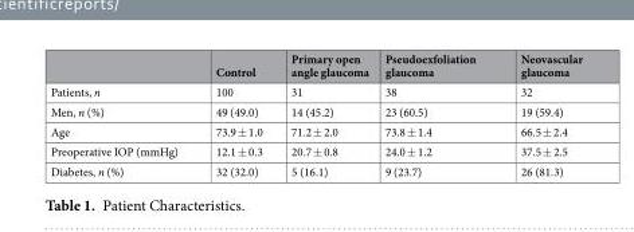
<table><thead><tr><td></td><td>Control</td><td>Primary open angle glaucoma</td><td>Pseudoexfoliation glaucoma</td><td>Neovascular glaucoma</td></tr></thead><tbody><tr><td>Patients, n</td><td>100</td><td>31</td><td>38</td><td>32</td></tr><tr><td>Men, n (%)</td><td>49 (49.0)</td><td>14 (45.2)</td><td>23 (60.5)</td><td>19 (59.4)</td></tr><tr><td>Age</td><td>73.9 ± 1.0</td><td>71.2 ± 2.0</td><td>73.8 ± 1.4</td><td>66.5 ± 2.4</td></tr><tr><td>Preoperative IOP (mmHg)</td><td>12.1 ± 0.3</td><td>20.7 ± 0.8</td><td>24.0 ± 1.2</td><td>37.5 ± 2.5</td></tr><tr><td>Diabetes, n (%)</td><td>32 (32.0)</td><td>5 (16.1)</td><td>9 (23.7)</td><td>26 (81.3)</td></tr></tbody></table>